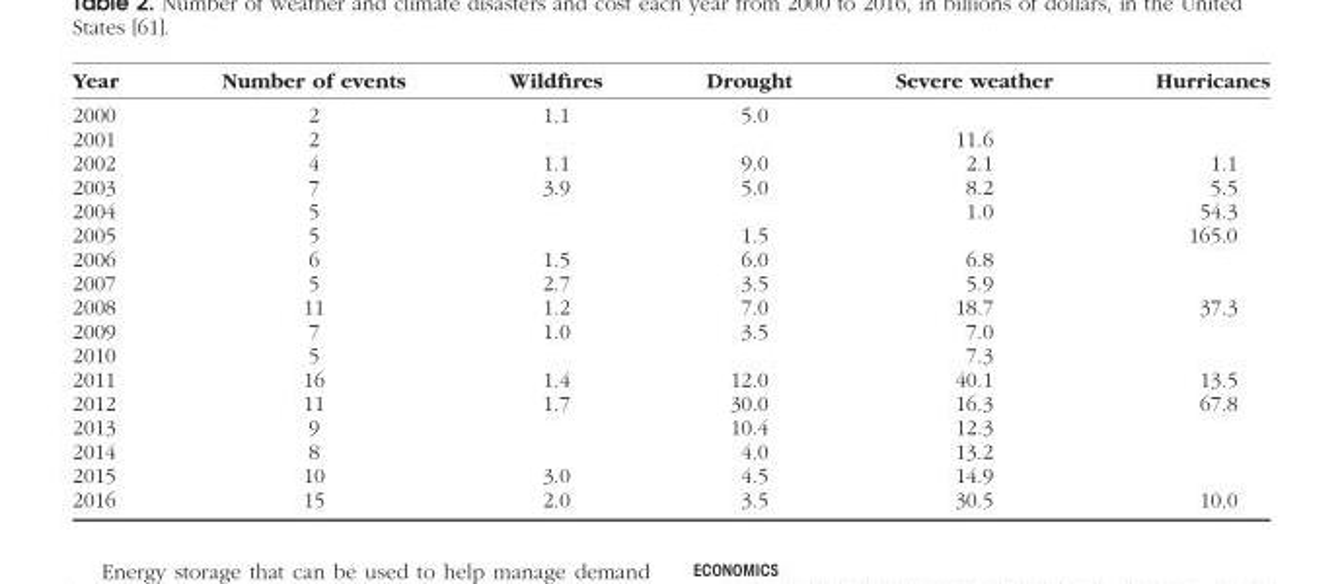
<table><thead><tr><td>Year</td><td>Number of events</td><td>Wildfires</td><td>Drought</td><td>Severe weather</td><td>Hurricanes</td></tr></thead><tbody><tr><td>2000</td><td>2</td><td>1.1</td><td>5.0</td><td></td><td></td></tr><tr><td>2001</td><td>2</td><td></td><td></td><td>11.6</td><td></td></tr><tr><td>2002</td><td>4</td><td>1.1</td><td>9.0</td><td>2.1</td><td>1.1</td></tr><tr><td>2003</td><td>7</td><td>3.9</td><td>5.0</td><td>8.2</td><td>5.5</td></tr><tr><td>2004</td><td>5</td><td></td><td></td><td>1.0</td><td>54.3</td></tr><tr><td>2005</td><td>5</td><td></td><td>1.5</td><td></td><td>165.0</td></tr><tr><td>2006</td><td>6</td><td>1.5</td><td>6.0</td><td>6.8</td><td></td></tr><tr><td>2007</td><td>5</td><td>2.7</td><td>3.5</td><td>5.9</td><td></td></tr><tr><td>2008</td><td>11</td><td>1.2</td><td>7.0</td><td>18.7</td><td>37.3</td></tr><tr><td>2009</td><td>7</td><td>1.0</td><td>3.5</td><td>7.0</td><td></td></tr><tr><td>2010</td><td>5</td><td></td><td></td><td>7.3</td><td></td></tr><tr><td>2011</td><td>16</td><td>1.4</td><td>12.0</td><td>40.1</td><td>13.5</td></tr><tr><td>2012</td><td>11</td><td>1.7</td><td>30.0</td><td>16.3</td><td>67.8</td></tr><tr><td>2013</td><td>9</td><td></td><td>10.4</td><td>12.3</td><td></td></tr><tr><td>2014</td><td>8</td><td></td><td>4.0</td><td>13.2</td><td></td></tr><tr><td>2015</td><td>10</td><td>3.0</td><td>4.5</td><td>14.9</td><td></td></tr><tr><td>2016</td><td>15</td><td>2.0</td><td>3.5</td><td>30.5</td><td>10.0</td></tr></tbody></table>